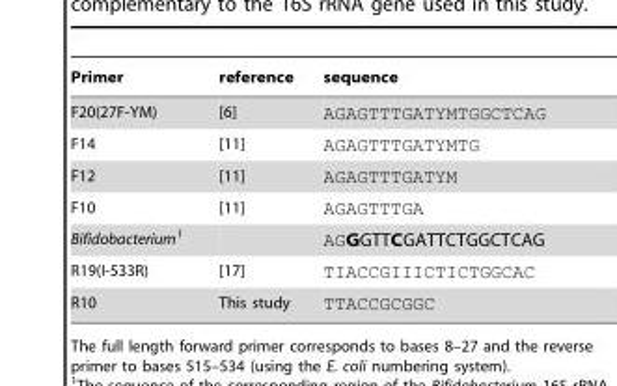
<table><thead><tr><td>Primer</td><td>reference</td><td>sequence</td></tr></thead><tbody><tr><td>F20(27F-YM)</td><td>[6]</td><td>AGAGTTTGATYMTGGCTCAG</td></tr><tr><td>F14</td><td>[11]</td><td>AGAGTTTGATYMTG</td></tr><tr><td>F12</td><td>[11]</td><td>AGAGTTTGATYM</td></tr><tr><td>F10</td><td>[11]</td><td>AGAGTTTGA</td></tr><tr><td>Bifidobacterium1</td><td></td><td>AGGGTTCGATTCTGGCTCAG</td></tr><tr><td>R19(I-533R)</td><td>[17]</td><td>TIACCGIIICTICTGGCAC</td></tr><tr><td>R10</td><td>This study</td><td>TTACCGCGGC</td></tr></tbody></table>